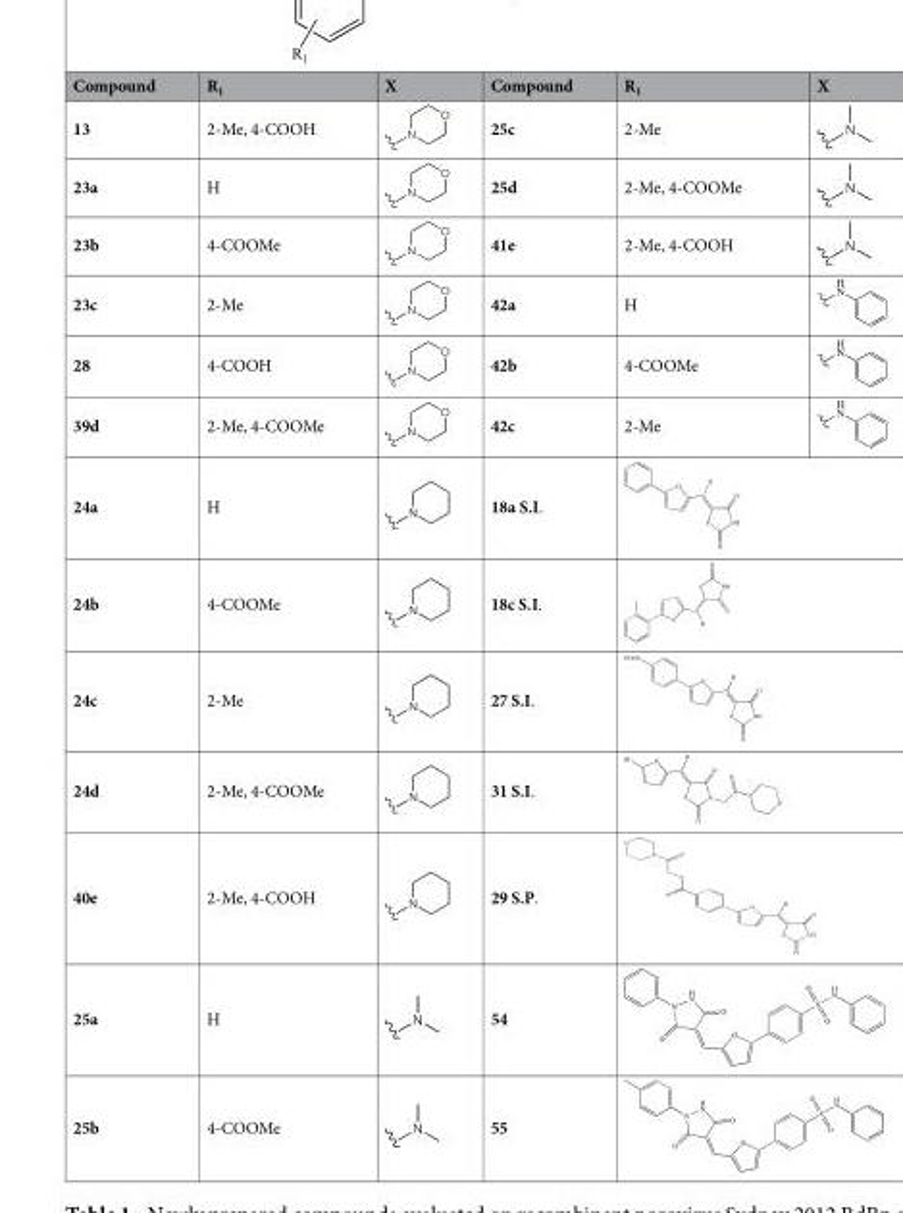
<table><thead><tr><td>Compound</td><td>R<sub>1</sub></td><td>X</td><td>Compound</td><td>R<sub>1</sub></td><td>X</td></tr></thead><tbody><tr><td>13</td><td>2-Me, 4-COOH</td><td></td><td>25c</td><td>2-Me</td><td></td></tr><tr><td>23a</td><td>H</td><td></td><td>25d</td><td>2-Me, 4-COOMe</td><td></td></tr><tr><td>23b</td><td>4-COOMe</td><td></td><td>41e</td><td>2-Me, 4-COOH</td><td></td></tr><tr><td>23c</td><td>2-Me</td><td></td><td>42a</td><td>H</td><td></td></tr><tr><td>28</td><td>4-COOH</td><td></td><td>42b</td><td>4-COOMe</td><td></td></tr><tr><td>39d</td><td>2-Me, 4-COOMe</td><td></td><td>42c</td><td>2-Me</td><td></td></tr><tr><td>24a</td><td>H</td><td></td><td>18a S.I.</td><td colspan="2"></td></tr><tr><td>24b</td><td>4-COOMe</td><td></td><td>18c S.I.</td><td colspan="2"></td></tr><tr><td>24c</td><td>2-Me</td><td></td><td>27 S.I.</td><td colspan="2"></td></tr><tr><td>24d</td><td>2-Me, 4-COOMe</td><td></td><td>31 S.I.</td><td colspan="2"></td></tr><tr><td>40e</td><td>2-Me, 4-COOH</td><td></td><td>29 S.P.</td><td colspan="2"></td></tr><tr><td>25a</td><td>H</td><td></td><td>54</td><td colspan="2"></td></tr><tr><td>25b</td><td>4-COOMe</td><td></td><td>55</td><td colspan="2"></td></tr></tbody></table>